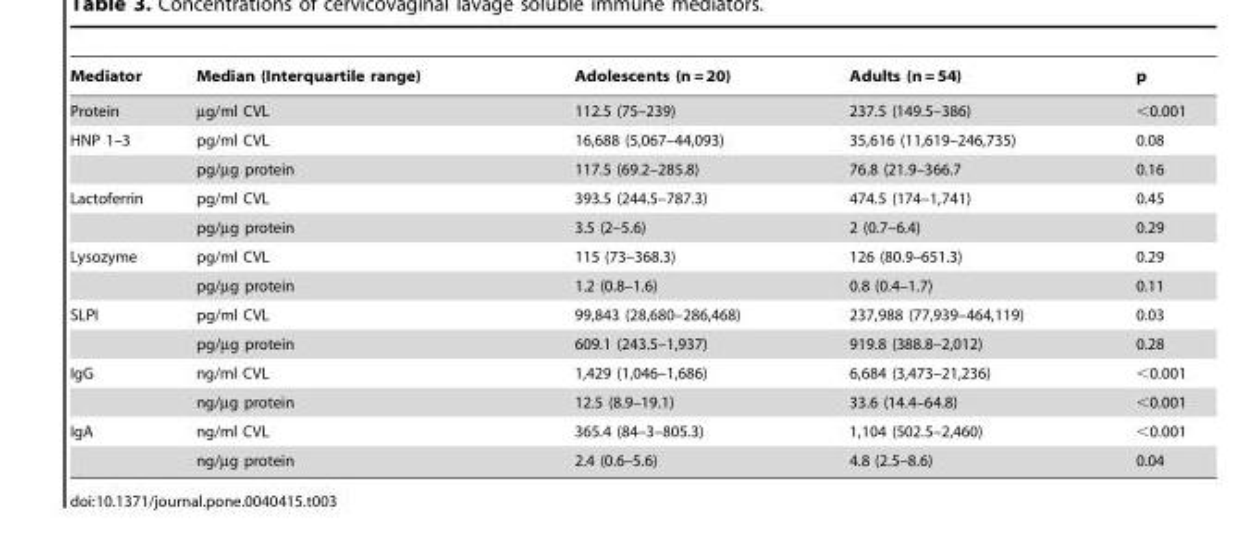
<table><thead><tr><td>Mediator</td><td>Median (Interquartile range)</td><td>Adolescents (n = 20)</td><td>Adults (n = 54)</td><td>p</td></tr></thead><tbody><tr><td>Protein</td><td>µg/ml CVL</td><td>112.5 (75–239)</td><td>237.5 (149.5–386)</td><td>&lt;0.001</td></tr><tr><td rowspan="2">HNP 1–3</td><td>pg/ml CVL</td><td>16,688 (5,067–44,093)</td><td>35,616 (11,619–246,735)</td><td>0.08</td></tr><tr><td>pg/µg protein</td><td>117.5 (69.2–285.8)</td><td>76.8 (21.9–366.7</td><td>0.16</td></tr><tr><td rowspan="2">Lactoferrin</td><td>pg/ml CVL</td><td>393.5 (244.5–787.3)</td><td>474.5 (174–1,741)</td><td>0.45</td></tr><tr><td>pg/µg protein</td><td>3.5 (2–5.6)</td><td>2 (0.7–6.4)</td><td>0.29</td></tr><tr><td rowspan="2">Lysozyme</td><td>pg/ml CVL</td><td>115 (73–368.3)</td><td>126 (80.9–651.3)</td><td>0.29</td></tr><tr><td>pg/µg protein</td><td>1.2 (0.8–1.6)</td><td>0.8 (0.4–1.7)</td><td>0.11</td></tr><tr><td rowspan="2">SLPI</td><td>pg/ml CVL</td><td>99,843 (28,680–286,468)</td><td>237,988 (77,939–464,119)</td><td>0.03</td></tr><tr><td>pg/µg protein</td><td>609.1 (243.5–1,937)</td><td>919.8 (388.8–2,012)</td><td>0.28</td></tr><tr><td rowspan="2">IgG</td><td>ng/ml CVL</td><td>1,429 (1,046–1,686)</td><td>6,684 (3,473–21,236)</td><td>&lt;0.001</td></tr><tr><td>ng/µg protein</td><td>12.5 (8.9–19.1)</td><td>33.6 (14.4–64.8)</td><td>&lt;0.001</td></tr><tr><td rowspan="2">IgA</td><td>ng/ml CVL</td><td>365.4 (84–3–805.3)</td><td>1,104 (502.5–2,460)</td><td>&lt;0.001</td></tr><tr><td>ng/µg protein</td><td>2.4 (0.6–5.6)</td><td>4.8 (2.5–8.6)</td><td>0.04</td></tr></tbody></table>